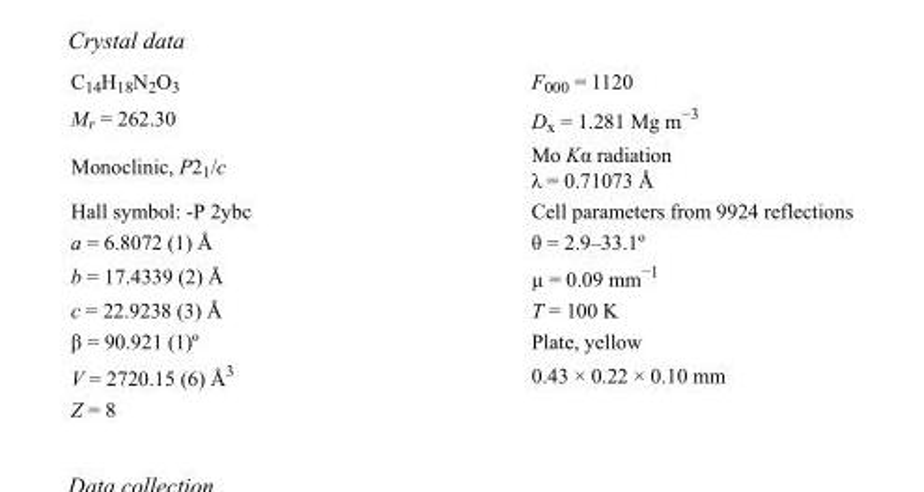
<table><tbody><tr><td>C<sub>14</sub>H<sub>18</sub>N<sub>2</sub>O<sub>3</sub></td><td>F000 = 1120</td></tr><tr><td>M<sub>r</sub> = 262.30</td><td>D<sub>x</sub> = 1.281 Mg m<sup>−3</sup></td></tr><tr><td>Monoclinic, P2<sub>1</sub>/c</td><td>Mo Kα radiation λ = 0.71073 Å</td></tr><tr><td>Hall symbol: -P 2ybc</td><td>Cell parameters from 9924 reflections</td></tr><tr><td>a = 6.8072 (1) Å</td><td>θ = 2.9–33.1º</td></tr><tr><td>b = 17.4339 (2) Å</td><td>µ = 0.09 mm<sup>−1</sup></td></tr><tr><td>c = 22.9238 (3) Å</td><td>T = 100 K</td></tr><tr><td>β = 90.921 (1)º</td><td>Plate, yellow</td></tr><tr><td>V = 2720.15 (6) Å<sup>3</sup></td><td>0.43 × 0.22 × 0.10 mm</td></tr><tr><td>Z = 8</td><td></td></tr></tbody></table>